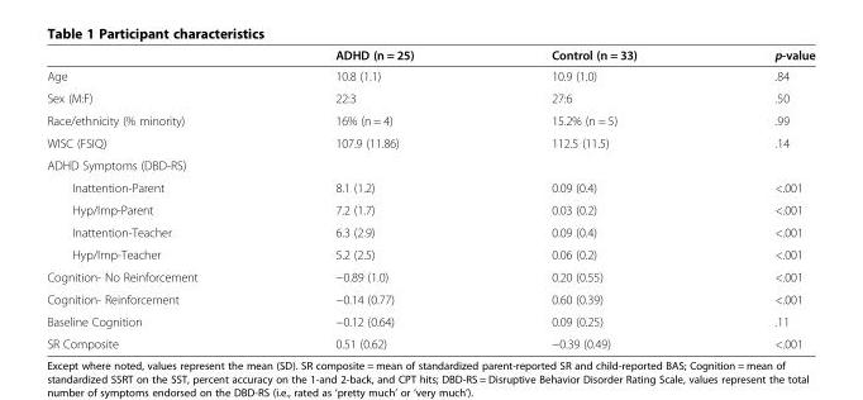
<table><thead><tr><td></td><td>ADHD (n = 25)</td><td>Control (n = 33)</td><td>p-value</td></tr></thead><tbody><tr><td>Age</td><td>10.8 (1.1)</td><td>10.9 (1.0)</td><td>.84</td></tr><tr><td>Sex (M:F)</td><td>22:3</td><td>27:6</td><td>.50</td></tr><tr><td>Race/ethnicity (% minority)</td><td>16% (n = 4)</td><td>15.2% (n = 5)</td><td>.99</td></tr><tr><td>WISC (FSIQ)</td><td>107.9 (11.86)</td><td>112.5 (11.5)</td><td>.14</td></tr><tr><td colspan="4">ADHD Symptoms (DBD-RS)</td></tr><tr><td>Inattention-Parent</td><td>8.1 (1.2)</td><td>0.09 (0.4)</td><td>&lt;.001</td></tr><tr><td>Hyp/Imp-Parent</td><td>7.2 (1.7)</td><td>0.03 (0.2)</td><td>&lt;.001</td></tr><tr><td>Inattention-Teacher</td><td>6.3 (2.9)</td><td>0.09 (0.4)</td><td>&lt;.001</td></tr><tr><td>Hyp/Imp-Teacher</td><td>5.2 (2.5)</td><td>0.06 (0.2)</td><td>&lt;.001</td></tr><tr><td>Cognition- No Reinforcement</td><td>−0.89 (1.0)</td><td>0.20 (0.55)</td><td>&lt;.001</td></tr><tr><td>Cognition- Reinforcement</td><td>−0.14 (0.77)</td><td>0.60 (0.39)</td><td>&lt;.001</td></tr><tr><td>Baseline Cognition</td><td>−0.12 (0.64)</td><td>0.09 (0.25)</td><td>.11</td></tr><tr><td>SR Composite</td><td>0.51 (0.62)</td><td>−0.39 (0.49)</td><td>&lt;.001</td></tr></tbody></table>